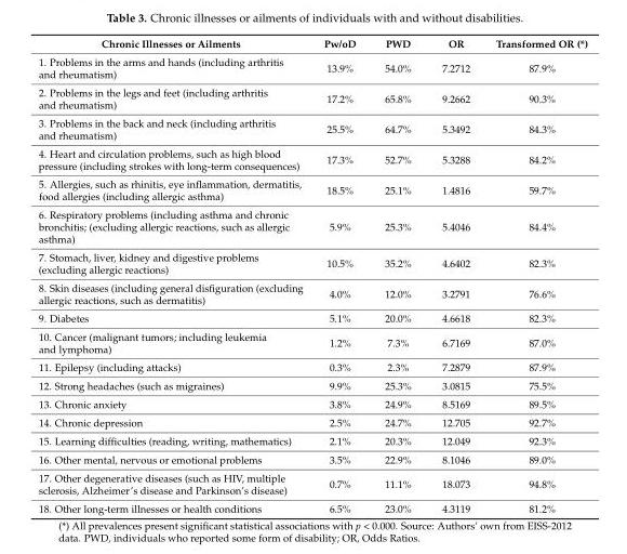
<table><thead><tr><td>Chronic Illnesses or Ailments</td><td>Pw/oD</td><td>PWD</td><td>OR</td><td>Transformed OR (*)</td></tr></thead><tbody><tr><td>1. Problems in the arms and hands (including arthritis and rheumatism)</td><td>13.9%</td><td>54.0%</td><td>7.2712</td><td>87.9%</td></tr><tr><td>2. Problems in the legs and feet (including arthritis and rheumatism)</td><td>17.2%</td><td>65.8%</td><td>9.2662</td><td>90.3%</td></tr><tr><td>3. Problems in the back and neck (including arthritis and rheumatism)</td><td>25.5%</td><td>64.7%</td><td>5.3492</td><td>84.3%</td></tr><tr><td>4. Heart and circulation problems, such as high blood pressure (including strokes with long-term consequences)</td><td>17.3%</td><td>52.7%</td><td>5.3288</td><td>84.2%</td></tr><tr><td>5. Allergies, such as rhinitis, eye inflammation, dermatitis, food allergies (including allergic asthma)</td><td>18.5%</td><td>25.1%</td><td>1.4816</td><td>59.7%</td></tr><tr><td>6. Respiratory problems (including asthma and chronic bronchitis; (excluding allergic reactions, such as allergic asthma)</td><td>5.9%</td><td>25.3%</td><td>5.4046</td><td>84.4%</td></tr><tr><td>7. Stomach, liver, kidney and digestive problems (excluding allergic reactions)</td><td>10.5%</td><td>35.2%</td><td>4.6402</td><td>82.3%</td></tr><tr><td>8. Skin diseases (including general disfiguration (excluding allergic reactions, such as dermatitis)</td><td>4.0%</td><td>12.0%</td><td>3.2791</td><td>76.6%</td></tr><tr><td>9. Diabetes</td><td>5.1%</td><td>20.0%</td><td>4.6618</td><td>82.3%</td></tr><tr><td>10. Cancer (malignant tumors; including leukemia and lymphoma)</td><td>1.2%</td><td>7.3%</td><td>6.7169</td><td>87.0%</td></tr><tr><td>11. Epilepsy (including attacks)</td><td>0.3%</td><td>2.3%</td><td>7.2879</td><td>87.9%</td></tr><tr><td>12. Strong headaches (such as migraines)</td><td>9.9%</td><td>25.3%</td><td>3.0815</td><td>75.5%</td></tr><tr><td>13. Chronic anxiety</td><td>3.8%</td><td>24.9%</td><td>8.5169</td><td>89.5%</td></tr><tr><td>14. Chronic depression</td><td>2.5%</td><td>24.7%</td><td>12.705</td><td>92.7%</td></tr><tr><td>15. Learning difficulties (reading, writing, mathematics)</td><td>2.1%</td><td>20.3%</td><td>12.049</td><td>92.3%</td></tr><tr><td>16. Other mental, nervous or emotional problems</td><td>3.5%</td><td>22.9%</td><td>8.1046</td><td>89.0%</td></tr><tr><td>17. Other degenerative diseases (such as HIV, multiple sclerosis, Alzheimer’s disease and Parkinson’s disease)</td><td>0.7%</td><td>11.1%</td><td>18.073</td><td>94.8%</td></tr><tr><td>18. Other long-term illnesses or health conditions</td><td>6.5%</td><td>23.0%</td><td>4.3119</td><td>81.2%</td></tr></tbody></table>